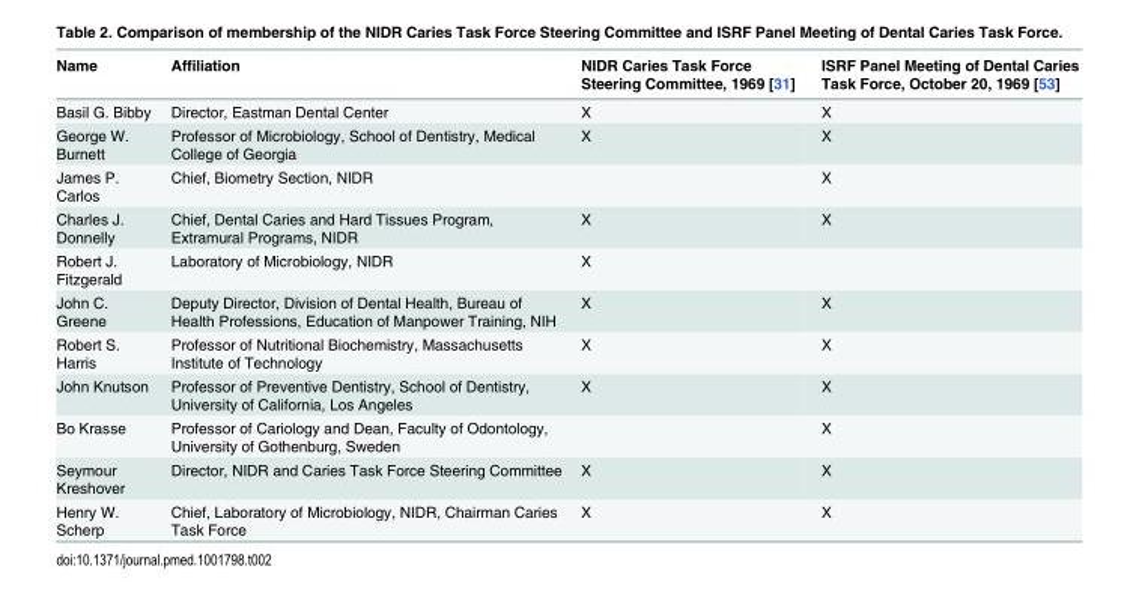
<table><thead><tr><td>Name</td><td>Affiliation</td><td>NIDR Caries Task Force Steering Committee, 1969 [31]</td><td>ISRF Panel Meeting of Dental Caries Task Force, October 20, 1969 [53]</td></tr></thead><tbody><tr><td>Basil G. Bibby</td><td>Director, Eastman Dental Center</td><td>X</td><td>X</td></tr><tr><td>George W. Burnett</td><td>Professor of Microbiology, School of Dentistry, Medical College of Georgia</td><td>X</td><td>X</td></tr><tr><td>James P. Carlos</td><td>Chief, Biometry Section, NIDR</td><td></td><td>X</td></tr><tr><td>Charles J. Donnelly</td><td>Chief, Dental Caries and Hard Tissues Program, Extramural Programs, NIDR</td><td>X</td><td>X</td></tr><tr><td>Robert J. Fitzgerald</td><td>Laboratory of Microbiology, NIDR</td><td>X</td><td></td></tr><tr><td>John C. Greene</td><td>Deputy Director, Division of Dental Health, Bureau of Health Professions, Education of Manpower Training, NIH</td><td>X</td><td>X</td></tr><tr><td>Robert S. Harris</td><td>Professor of Nutritional Biochemistry, Massachusetts Institute of Technology</td><td>X</td><td>X</td></tr><tr><td>John Knutson</td><td>Professor of Preventive Dentistry, School of Dentistry, University of California, Los Angeles</td><td>X</td><td>X</td></tr><tr><td>Bo Krasse</td><td>Professor of Cariology and Dean, Faculty of Odontology, University of Gothenburg, Sweden</td><td></td><td>X</td></tr><tr><td>Seymour Kreshover</td><td>Director, NIDR and Caries Task Force Steering Committee</td><td>X</td><td>X</td></tr><tr><td>Henry W. Scherp</td><td>Chief, Laboratory of Microbiology, NIDR, Chairman Caries Task Force</td><td>X</td><td>X</td></tr></tbody></table>